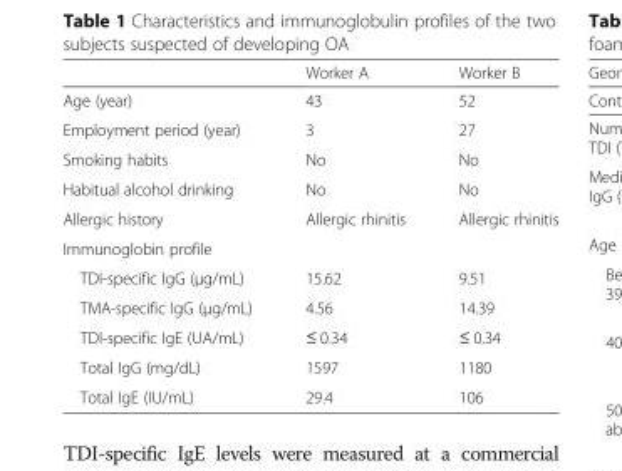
<table><thead><tr><td></td><td>Worker A</td><td>Worker B</td></tr></thead><tbody><tr><td>Age (year)</td><td>43</td><td>52</td></tr><tr><td>Employment period (year)</td><td>3</td><td>27</td></tr><tr><td>Smoking habits</td><td>No</td><td>No</td></tr><tr><td>Habitual alcohol drinking</td><td>No</td><td>No</td></tr><tr><td>Allergic history</td><td>Allergic rhinitis</td><td>Allergic rhinitis</td></tr><tr><td colspan="3">Immunoglobin profile</td></tr><tr><td>TDI-specific IgG (μg/mL)</td><td>15.62</td><td>9.51</td></tr><tr><td>TMA-specific IgG (μg/mL)</td><td>4.56</td><td>14.39</td></tr><tr><td>TDI-specific IgE (UA/mL)</td><td>≤ 0.34</td><td>≤ 0.34</td></tr><tr><td>Total IgG (mg/dL)</td><td>1597</td><td>1180</td></tr><tr><td>Total IgE (IU/mL)</td><td>29.4</td><td>106</td></tr></tbody></table>